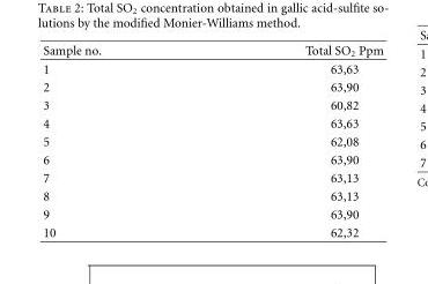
<table><thead><tr><td>Sample no.</td><td>Total SO<sub>2</sub> Ppm</td></tr></thead><tbody><tr><td>1</td><td>63,63</td></tr><tr><td>2</td><td>63,90</td></tr><tr><td>3</td><td>60,82</td></tr><tr><td>4</td><td>63,63</td></tr><tr><td>5</td><td>62,08</td></tr><tr><td>6</td><td>63,90</td></tr><tr><td>7</td><td>63,13</td></tr><tr><td>8</td><td>63,13</td></tr><tr><td>9</td><td>63,90</td></tr><tr><td>10</td><td>62,32</td></tr></tbody></table>